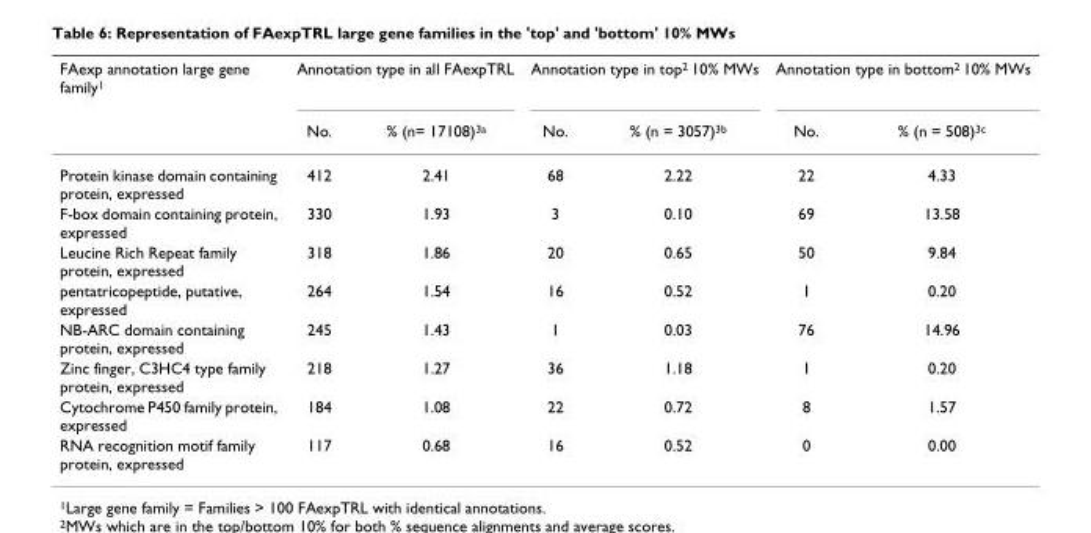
<table><thead><tr><td rowspan="2">FAexp annotation large gene family<sup>1</sup></td><td colspan="2">Annotation type in all FAexpTRL</td><td colspan="2">Annotation type in top<sup>2</sup> 10% MWs</td><td colspan="2">Annotation type in bottom<sup>2</sup> 10% MWs</td></tr><tr><td>No.</td><td>% (n= 17108)<sup>3a</sup></td><td>No.</td><td>% (n = 3057)<sup>3b</sup></td><td>No.</td><td>% (n = 508)<sup>3c</sup></td></tr></thead><tbody><tr><td>Protein kinase domain containing protein, expressed</td><td>412</td><td>2.41</td><td>68</td><td>2.22</td><td>22</td><td>4.33</td></tr><tr><td>F-box domain containing protein, expressed</td><td>330</td><td>1.93</td><td>3</td><td>0.10</td><td>69</td><td>13.58</td></tr><tr><td>Leucine Rich Repeat family protein, expressed</td><td>318</td><td>1.86</td><td>20</td><td>0.65</td><td>50</td><td>9.84</td></tr><tr><td>pentatricopeptide, putative, expressed</td><td>264</td><td>1.54</td><td>16</td><td>0.52</td><td>1</td><td>0.20</td></tr><tr><td>NB-ARC domain containing protein, expressed</td><td>245</td><td>1.43</td><td>1</td><td>0.03</td><td>76</td><td>14.96</td></tr><tr><td>Zinc finger, C3HC4 type family protein, expressed</td><td>218</td><td>1.27</td><td>36</td><td>1.18</td><td>1</td><td>0.20</td></tr><tr><td>Cytochrome P450 family protein, expressed</td><td>184</td><td>1.08</td><td>22</td><td>0.72</td><td>8</td><td>1.57</td></tr><tr><td>RNA recognition motif family protein, expressed</td><td>117</td><td>0.68</td><td>16</td><td>0.52</td><td>0</td><td>0.00</td></tr></tbody></table>